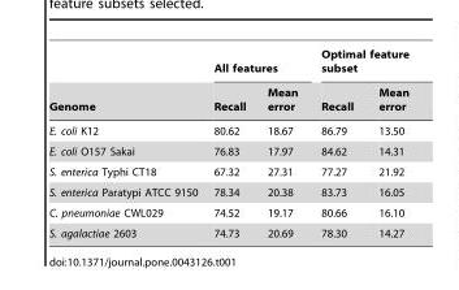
<table><thead><tr><td rowspan="2">Genome</td><td colspan="2">All features</td><td colspan="2">Optimal feature subset</td></tr><tr><td>Recall</td><td>Mean error</td><td>Recall</td><td>Mean error</td></tr></thead><tbody><tr><td>E. coli K12</td><td>80.62</td><td>18.67</td><td>86.79</td><td>13.50</td></tr><tr><td>E. coli O157 Sakai</td><td>76.83</td><td>17.97</td><td>84.62</td><td>14.31</td></tr><tr><td>S. enterica Typhi CT18</td><td>67.32</td><td>27.31</td><td>77.27</td><td>21.92</td></tr><tr><td>S. enterica Paratypi ATCC 9150</td><td>78.34</td><td>20.38</td><td>83.73</td><td>16.05</td></tr><tr><td>C. pneumoniae CWL029</td><td>74.52</td><td>19.17</td><td>80.66</td><td>16.10</td></tr><tr><td>S. agalactiae 2603</td><td>74.73</td><td>20.69</td><td>78.30</td><td>14.27</td></tr></tbody></table>